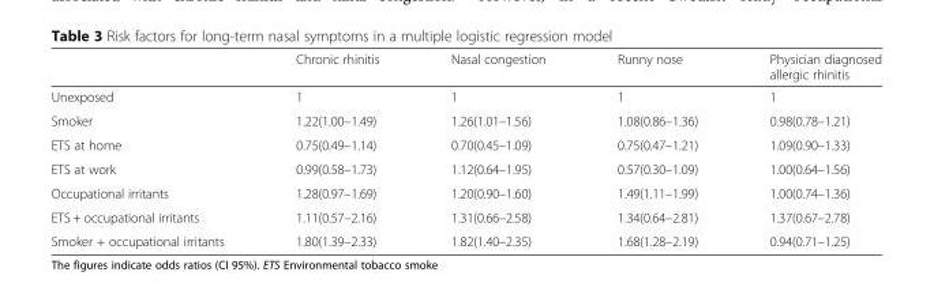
<table><thead><tr><td></td><td>Chronic rhinitis</td><td>Nasal congestion</td><td>Runny nose</td><td>Physician diagnosed allergic rhinitis</td></tr></thead><tbody><tr><td>Unexposed</td><td>1</td><td>1</td><td>1</td><td>1</td></tr><tr><td>Smoker</td><td>1.22(1.00–1.49)</td><td>1.26(1.01–1.56)</td><td>1.08(0.86–1.36)</td><td>0.98(0.78–1.21)</td></tr><tr><td>ETS at home</td><td>0.75(0.49–1.14)</td><td>0.70(0.45–1.09)</td><td>0.75(0.47–1.21)</td><td>1.09(0.90–1.33)</td></tr><tr><td>ETS at work</td><td>0.99(0.58–1.73)</td><td>1.12(0.64–1.95)</td><td>0.57(0.30–1.09)</td><td>1.00(0.64–1.56)</td></tr><tr><td>Occupational irritants</td><td>1.28(0.97–1.69)</td><td>1.20(0.90–1.60)</td><td>1.49(1.11–1.99)</td><td>1.00(0.74–1.36)</td></tr><tr><td>ETS + occupational irritants</td><td>1.11(0.57–2.16)</td><td>1.31(0.66–2.58)</td><td>1.34(0.64–2.81)</td><td>1.37(0.67–2.78)</td></tr><tr><td>Smoker + occupational irritants</td><td>1.80(1.39–2.33)</td><td>1.82(1.40–2.35)</td><td>1.68(1.28–2.19)</td><td>0.94(0.71–1.25)</td></tr></tbody></table>